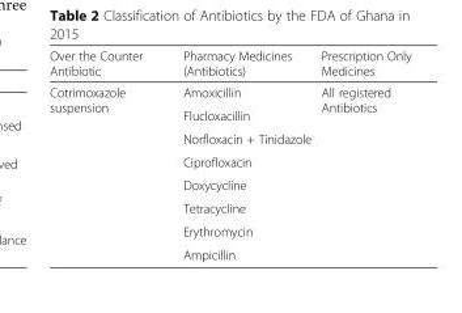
<table><thead><tr><td>Over the Counter Antibiotic</td><td>Pharmacy Medicines (Antibiotics)</td><td>Prescription Only Medicines</td></tr></thead><tbody><tr><td rowspan="8">Cotrimoxazole suspension</td><td>Amoxicillin</td><td rowspan="8">All registered Antibiotics</td></tr><tr><td>Flucloxacillin</td></tr><tr><td>Norfloxacin + Tinidazole</td></tr><tr><td>Ciprofloxacin</td></tr><tr><td>Doxycycline</td></tr><tr><td>Tetracycline</td></tr><tr><td>Erythromycin</td></tr><tr><td>Ampicillin</td></tr></tbody></table>